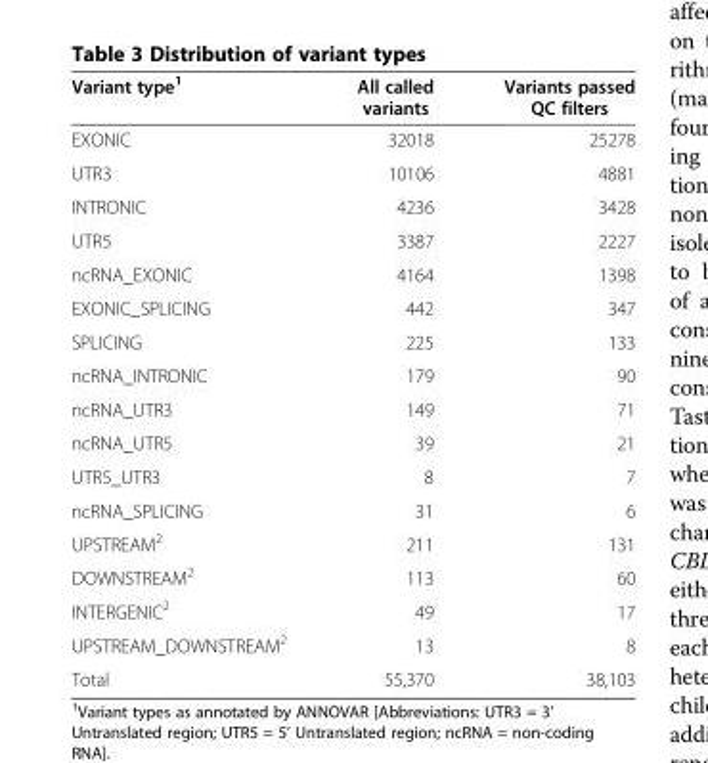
<table><thead><tr><td>Variant type<sup>1</sup></td><td>All called variants</td><td>Variants passed QC filters</td></tr></thead><tbody><tr><td>EXONIC</td><td>32018</td><td>25278</td></tr><tr><td>UTR3</td><td>10106</td><td>4881</td></tr><tr><td>INTRONIC</td><td>4236</td><td>3428</td></tr><tr><td>UTR5</td><td>3387</td><td>2227</td></tr><tr><td>ncRNA_EXONIC</td><td>4164</td><td>1398</td></tr><tr><td>EXONIC_SPLICING</td><td>442</td><td>347</td></tr><tr><td>SPLICING</td><td>225</td><td>133</td></tr><tr><td>ncRNA_INTRONIC</td><td>179</td><td>90</td></tr><tr><td>ncRNA_UTR3</td><td>149</td><td>71</td></tr><tr><td>ncRNA_UTR5</td><td>39</td><td>21</td></tr><tr><td>UTR5_UTR3</td><td>8</td><td>7</td></tr><tr><td>ncRNA_SPLICING</td><td>31</td><td>6</td></tr><tr><td>UPSTREAM<sup>2</sup></td><td>211</td><td>131</td></tr><tr><td>DOWNSTREAM<sup>2</sup></td><td>113</td><td>60</td></tr><tr><td>INTERGENIC<sup>2</sup></td><td>49</td><td>17</td></tr><tr><td>UPSTREAM_DOWNSTREAM<sup>2</sup></td><td>13</td><td>8</td></tr><tr><td>Total</td><td>55,370</td><td>38,103</td></tr></tbody></table>